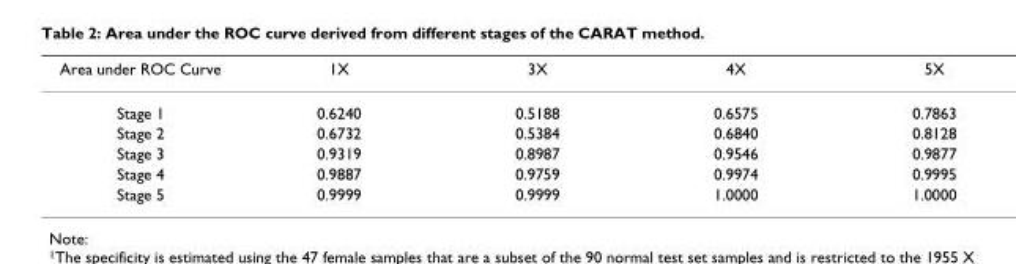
<table><thead><tr><td>Area under ROC Curve</td><td>1X</td><td>3X</td><td>4X</td><td>5X</td></tr></thead><tbody><tr><td>Stage 1</td><td>0.6240</td><td>0.5188</td><td>0.6575</td><td>0.7863</td></tr><tr><td>Stage 2</td><td>0.6732</td><td>0.5384</td><td>0.6840</td><td>0.8128</td></tr><tr><td>Stage 3</td><td>0.9319</td><td>0.8987</td><td>0.9546</td><td>0.9877</td></tr><tr><td>Stage 4</td><td>0.9887</td><td>0.9759</td><td>0.9974</td><td>0.9995</td></tr><tr><td>Stage 5</td><td>0.9999</td><td>0.9999</td><td>1.0000</td><td>1.0000</td></tr></tbody></table>